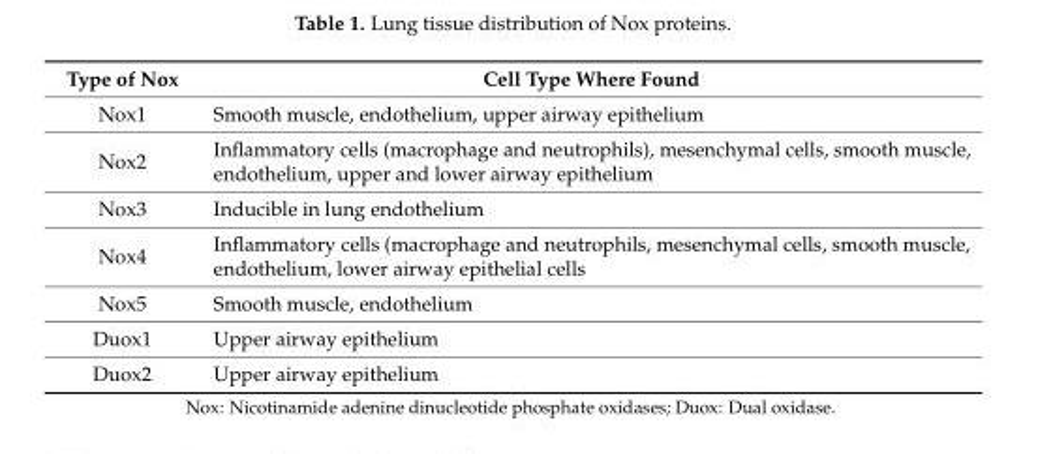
<table><thead><tr><td>Type of Nox</td><td>Cell Type Where Found</td></tr></thead><tbody><tr><td>Nox1</td><td>Smooth muscle, endothelium, upper airway epithelium</td></tr><tr><td>Nox2</td><td>Inflammatory cells (macrophage and neutrophils), mesenchymal cells, smooth muscle, endothelium, upper and lower airway epithelium</td></tr><tr><td>Nox3</td><td>Inducible in lung endothelium</td></tr><tr><td>Nox4</td><td>Inflammatory cells (macrophage and neutrophils, mesenchymal cells, smooth muscle, endothelium, lower airway epithelial cells</td></tr><tr><td>Nox5</td><td>Smooth muscle, endothelium</td></tr><tr><td>Duox1</td><td>Upper airway epithelium</td></tr><tr><td>Duox2</td><td>Upper airway epithelium</td></tr></tbody></table>